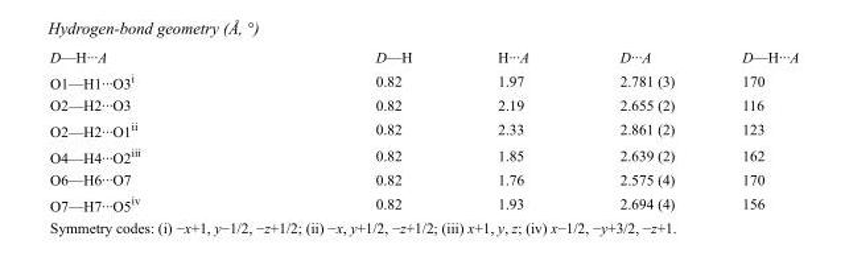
<table><tbody><tr><td>D—H···A</td><td>D—H</td><td>H···A</td><td>D···A</td><td>D—H···A</td></tr><tr><td>O1—H1···O3<sup>i</sup></td><td>0.82</td><td>1.97</td><td>2.781 (3)</td><td>170</td></tr><tr><td>O2—H2···O3</td><td>0.82</td><td>2.19</td><td>2.655 (2)</td><td>116</td></tr><tr><td>O2—H2···O1<sup>ii</sup></td><td>0.82</td><td>2.33</td><td>2.861 (2)</td><td>123</td></tr><tr><td>O4—H4···O2<sup>iii</sup></td><td>0.82</td><td>1.85</td><td>2.639 (2)</td><td>162</td></tr><tr><td>O6—H6···O7</td><td>0.82</td><td>1.76</td><td>2.575 (4)</td><td>170</td></tr><tr><td>O7—H7···O5<sup>iv</sup></td><td>0.82</td><td>1.93</td><td>2.694 (4)</td><td>156</td></tr></tbody></table>